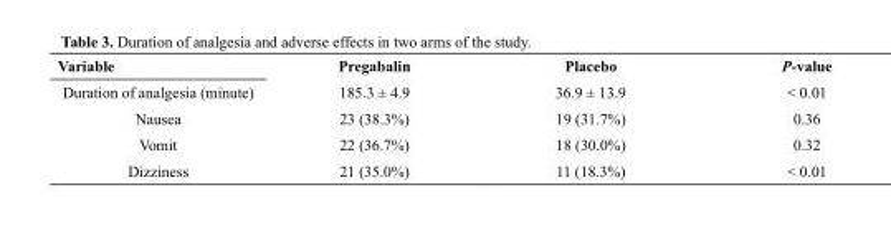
<table><thead><tr><td>Variable</td><td>Pregabalin</td><td>Placebo</td><td>P-value</td></tr></thead><tbody><tr><td>Duration of analgesia (minute)</td><td>185.3 ± 4.9</td><td>36.9 ± 13.9</td><td>&lt; 0.01</td></tr><tr><td>Nausea</td><td>23 (38.3%)</td><td>19 (31.7%)</td><td>0.36</td></tr><tr><td>Vomit</td><td>22 (36.7%)</td><td>18 (30.0%)</td><td>0.32</td></tr><tr><td>Dizziness</td><td>21 (35.0%)</td><td>11 (18.3%)</td><td>&lt; 0.01</td></tr></tbody></table>